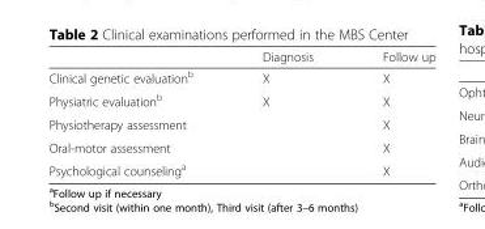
<table><thead><tr><td></td><td>Diagnosis</td><td>Follow up</td></tr></thead><tbody><tr><td>Clinical genetic evaluation<sup>b</sup></td><td>X</td><td>X</td></tr><tr><td>Physiatric evaluation<sup>b</sup></td><td>X</td><td>X</td></tr><tr><td>Physiotherapy assessment</td><td></td><td>X</td></tr><tr><td>Oral-motor assessment</td><td></td><td>X</td></tr><tr><td>Psychological counseling<sup>a</sup></td><td></td><td>X</td></tr></tbody></table>